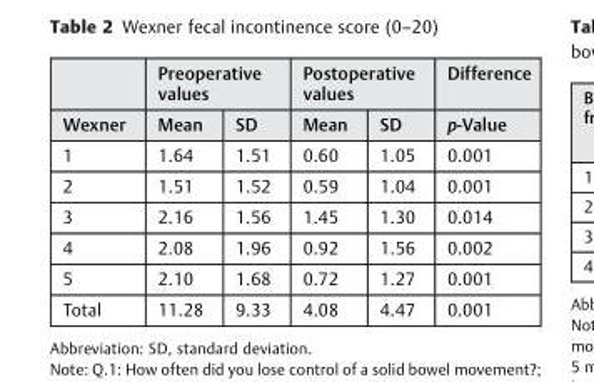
<table><thead><tr><td rowspan="2">Wexner</td><td colspan="2">Preoperative values</td><td colspan="2">Postoperative values</td><td rowspan="2">Difference p-Value</td></tr><tr><td>Mean</td><td>SD</td><td>Mean</td><td>SD</td></tr></thead><tbody><tr><td>1</td><td>1.64</td><td>1.51</td><td>0.60</td><td>1.05</td><td>0.001</td></tr><tr><td>2</td><td>1.51</td><td>1.52</td><td>0.59</td><td>1.04</td><td>0.001</td></tr><tr><td>3</td><td>2.16</td><td>1.56</td><td>1.45</td><td>1.30</td><td>0.014</td></tr><tr><td>4</td><td>2.08</td><td>1.96</td><td>0.92</td><td>1.56</td><td>0.002</td></tr><tr><td>5</td><td>2.10</td><td>1.68</td><td>0.72</td><td>1.27</td><td>0.001</td></tr><tr><td>Total</td><td>11.28</td><td>9.33</td><td>4.08</td><td>4.47</td><td>0.001</td></tr></tbody></table>